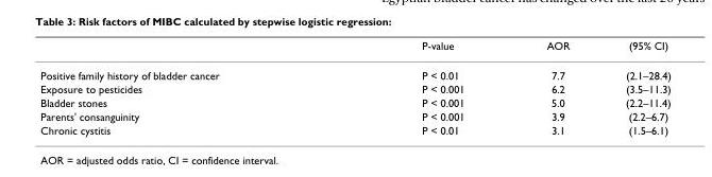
<table><thead><tr><td></td><td>P-value</td><td>AOR</td><td>(95% CI)</td></tr></thead><tbody><tr><td>Positive family history of bladder cancer</td><td>P &lt; 0.01</td><td>7.7</td><td>(2.1–28.4)</td></tr><tr><td>Exposure to pesticides</td><td>P &lt; 0.001</td><td>6.2</td><td>(3.5–11.3)</td></tr><tr><td>Bladder stones</td><td>P &lt; 0.001</td><td>5.0</td><td>(2.2–11.4)</td></tr><tr><td>Parents&#x27; consanguinity</td><td>P &lt; 0.001</td><td>3.9</td><td>(2.2–6.7)</td></tr><tr><td>Chronic cystitis</td><td>P &lt; 0.01</td><td>3.1</td><td>(1.5–6.1)</td></tr></tbody></table>